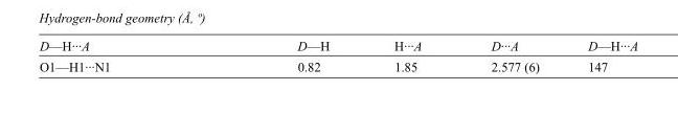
<table><tbody><tr><td>D—H···A</td><td>D—H</td><td>H···A</td><td>D···A</td><td>D—H···A</td></tr><tr><td>O1—H1···N1</td><td>0.82</td><td>1.85</td><td>2.577 (6)</td><td>147</td></tr></tbody></table>